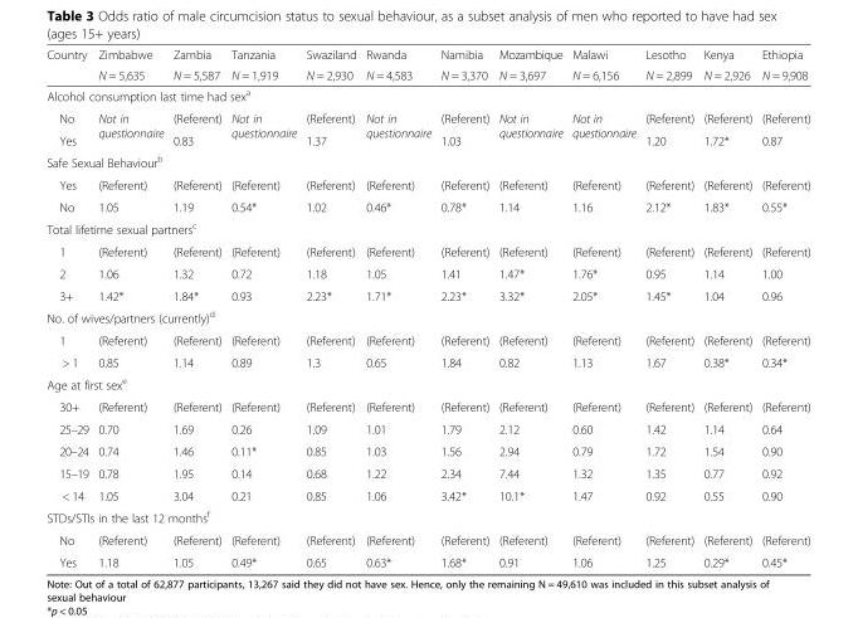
<table><thead><tr><td rowspan="2">Country</td><td rowspan="2">Zimbabwe N = 5,635</td><td rowspan="2">Zambia N = 5,587</td><td rowspan="2">Tanzania N = 1,919</td><td rowspan="2">Swaziland N = 2,930</td><td rowspan="2">Rwanda N = 4,583</td><td rowspan="2">Namibia N = 3,370</td><td rowspan="2">Mozambique N = 3,697</td><td rowspan="2">Malawi N = 6,156</td><td rowspan="2">Lesotho N = 2,899</td><td rowspan="2">Kenya N = 2,926</td><td rowspan="2">Ethiopia N = 9,908</td></tr><tr></tr></thead><tbody><tr><td colspan="12">Alcohol consumption last time had sex<sup>a</sup></td></tr><tr><td>No</td><td rowspan="2">Not in questionnaire</td><td>(Referent)</td><td rowspan="2">Not in questionnaire</td><td>(Referent)</td><td rowspan="2">Not in questionnaire</td><td>(Referent)</td><td rowspan="2">Not in questionnaire</td><td rowspan="2">Not in questionnaire</td><td>(Referent)</td><td>(Referent)</td><td>(Referent)</td></tr><tr><td>Yes</td><td>0.83</td><td>1.37</td><td>1.03</td><td>1.20</td><td>1.72*</td><td>0.87</td></tr><tr><td colspan="12">Safe Sexual Behaviour<sup>b</sup></td></tr><tr><td>Yes</td><td>(Referent)</td><td>(Referent)</td><td>(Referent)</td><td>(Referent)</td><td>(Referent)</td><td>(Referent)</td><td>(Referent)</td><td>(Referent)</td><td>(Referent)</td><td>(Referent)</td><td>(Referent)</td></tr><tr><td>No</td><td>1.05</td><td>1.19</td><td>0.54*</td><td>1.02</td><td>0.46*</td><td>0.78*</td><td>1.14</td><td>1.16</td><td>2.12*</td><td>1.83*</td><td>0.55*</td></tr><tr><td colspan="12">Total lifetime sexual partners<sup>c</sup></td></tr><tr><td>1</td><td>(Referent)</td><td>(Referent)</td><td>(Referent)</td><td>(Referent)</td><td>(Referent)</td><td>(Referent)</td><td>(Referent)</td><td>(Referent)</td><td>(Referent)</td><td>(Referent)</td><td>(Referent)</td></tr><tr><td>2</td><td>1.06</td><td>1.32</td><td>0.72</td><td>1.18</td><td>1.05</td><td>1.41</td><td>1.47*</td><td>1.76*</td><td>0.95</td><td>1.14</td><td>1.00</td></tr><tr><td>3+</td><td>1.42*</td><td>1.84*</td><td>0.93</td><td>2.23*</td><td>1.71*</td><td>2.23*</td><td>3.32*</td><td>2.05*</td><td>1.45*</td><td>1.04</td><td>0.96</td></tr><tr><td colspan="12">No. of wives/partners (currently)<sup>d</sup></td></tr><tr><td>1</td><td>(Referent)</td><td>(Referent)</td><td>(Referent)</td><td>(Referent)</td><td>(Referent)</td><td>(Referent)</td><td>(Referent)</td><td>(Referent)</td><td>(Referent)</td><td>(Referent)</td><td>(Referent)</td></tr><tr><td>&gt; 1</td><td>0.85</td><td>1.14</td><td>0.89</td><td>1.3</td><td>0.65</td><td>1.84</td><td>0.82</td><td>1.13</td><td>1.67</td><td>0.38*</td><td>0.34*</td></tr><tr><td colspan="12">Age at first sex<sup>e</sup></td></tr><tr><td>30+</td><td>(Referent)</td><td>(Referent)</td><td>(Referent)</td><td>(Referent)</td><td>(Referent)</td><td>(Referent)</td><td>(Referent)</td><td>(Referent)</td><td>(Referent)</td><td>(Referent)</td><td>(Referent)</td></tr><tr><td>25–29</td><td>0.70</td><td>1.69</td><td>0.26</td><td>1.09</td><td>1.01</td><td>1.79</td><td>2.12</td><td>0.60</td><td>1.42</td><td>1.14</td><td>0.64</td></tr><tr><td>20–24</td><td>0.74</td><td>1.46</td><td>0.11*</td><td>0.85</td><td>1.03</td><td>1.56</td><td>2.94</td><td>0.79</td><td>1.72</td><td>1.54</td><td>0.90</td></tr><tr><td>15–19</td><td>0.78</td><td>1.95</td><td>0.14</td><td>0.68</td><td>1.22</td><td>2.34</td><td>7.44</td><td>1.32</td><td>1.35</td><td>0.77</td><td>0.92</td></tr><tr><td>&lt; 14</td><td>1.05</td><td>3.04</td><td>0.21</td><td>0.85</td><td>1.06</td><td>3.42*</td><td>10.1*</td><td>1.47</td><td>0.92</td><td>0.55</td><td>0.90</td></tr><tr><td colspan="12">STDs/STIs in the last 12 months<sup>f</sup></td></tr><tr><td>No</td><td>(Referent)</td><td>(Referent)</td><td>(Referent)</td><td>(Referent)</td><td>(Referent)</td><td>(Referent)</td><td>(Referent)</td><td>(Referent)</td><td>(Referent)</td><td>(Referent)</td><td>(Referent)</td></tr><tr><td>Yes</td><td>1.18</td><td>1.05</td><td>0.49*</td><td>0.65</td><td>0.63*</td><td>1.68*</td><td>0.91</td><td>1.06</td><td>1.25</td><td>0.29*</td><td>0.45*</td></tr></tbody></table>